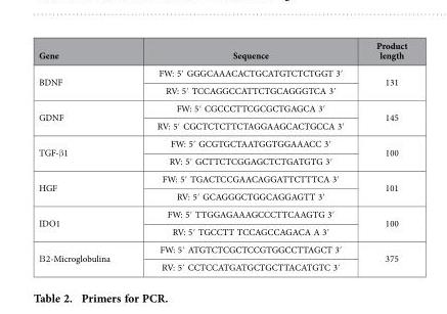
<table><thead><tr><td>Gene</td><td>Sequence</td><td>Product length</td></tr></thead><tbody><tr><td rowspan="2">BDNF</td><td>FW: 5′ GGGCAAACACTGCATGTCTCTGGT 3′</td><td rowspan="2">131</td></tr><tr><td>RV: 5′ TCCAGGCCATTCTGCAGGGTCA 3′</td></tr><tr><td rowspan="2">GDNF</td><td>FW: 5′ CGCCCTTCGCGCTGAGCA 3′</td><td rowspan="2">145</td></tr><tr><td>RV: 5′ CGCTCTCTTCTAGGAAGCACTGCCA 3′</td></tr><tr><td rowspan="2">TGF-β 1</td><td>FW: 5′ GCGTGCTAATGGTGGAAACC 3′</td><td rowspan="2">100</td></tr><tr><td>RV: 5′ GCTTCTCGGAGCTCTGATGTG 3′</td></tr><tr><td rowspan="2">HGF</td><td>FW: 5′ TGACTCCGAACAGGATTCTTTCA 3′</td><td rowspan="2">101</td></tr><tr><td>RV: 5′ GCAGGGCTGGCAGGAGTT 3′</td></tr><tr><td rowspan="2">IDO1</td><td>FW: 5′ TTGGAGAAAGCCCTTCAAGTG 3′</td><td rowspan="2">100</td></tr><tr><td>RV: 5′ TGCCTT TCCAGCCAGACA A 3′</td></tr><tr><td rowspan="2">Β 2-Microglobulina</td><td>FW: 5′ ATGTCTCGCTCCGTGGCCTTAGCT 3′</td><td rowspan="2">375</td></tr><tr><td>RV: 5′ CCTCCATGATGCTGCTTACATGTC 3′</td></tr></tbody></table>